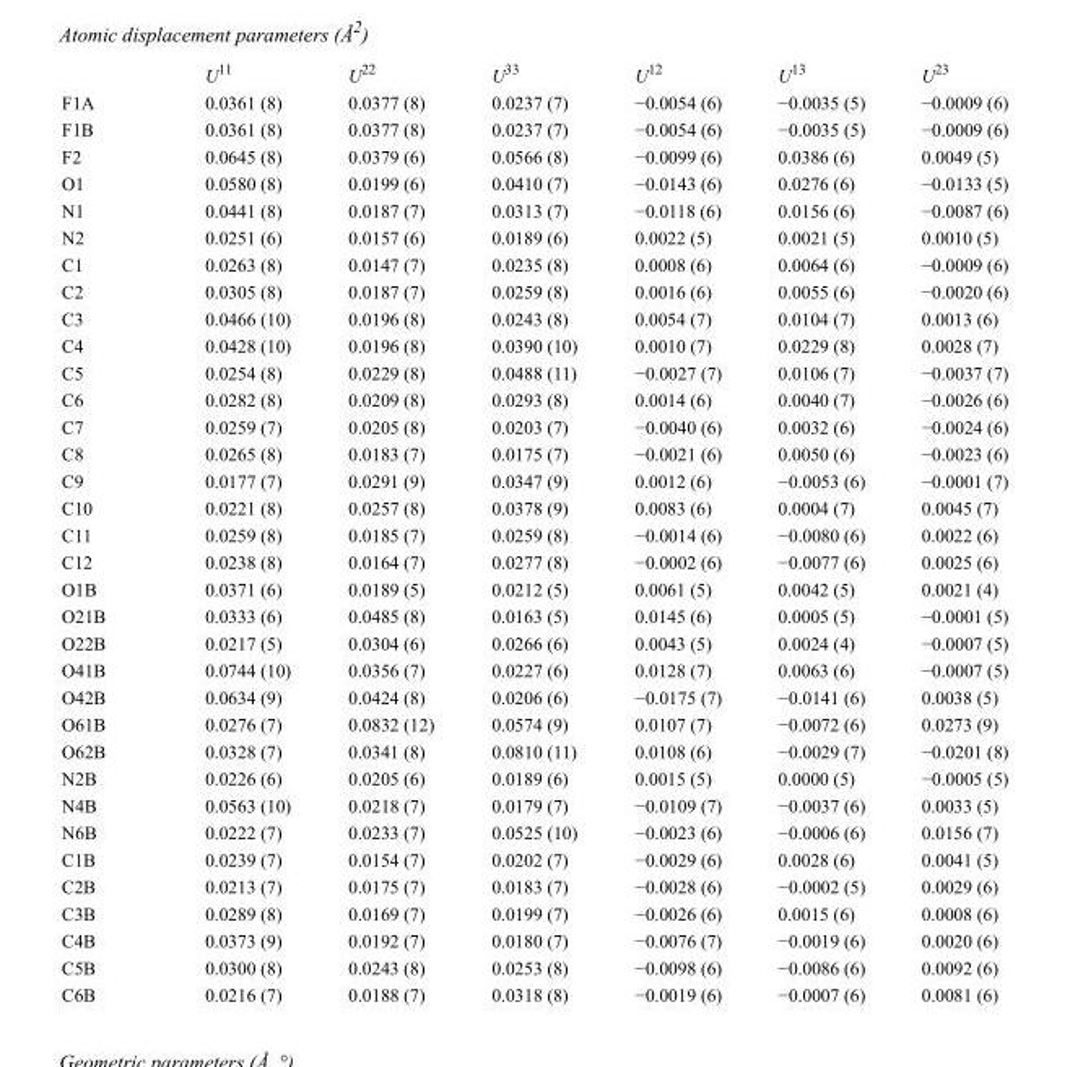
<table><thead><tr><td></td><td>U<sup>11</sup></td><td>U<sup>22</sup></td><td>U<sup>33</sup></td><td>U<sup>12</sup></td><td>U<sup>13</sup></td><td>U<sup>23</sup></td></tr></thead><tbody><tr><td>F1A</td><td>0.0361 (8)</td><td>0.0377 (8)</td><td>0.0237 (7)</td><td>−0.0054 (6)</td><td>−0.0035 (5)</td><td>−0.0009 (6)</td></tr><tr><td>F1B</td><td>0.0361 (8)</td><td>0.0377 (8)</td><td>0.0237 (7)</td><td>−0.0054 (6)</td><td>−0.0035 (5)</td><td>−0.0009 (6)</td></tr><tr><td>F2</td><td>0.0645 (8)</td><td>0.0379 (6)</td><td>0.0566 (8)</td><td>−0.0099 (6)</td><td>0.0386 (6)</td><td>0.0049 (5)</td></tr><tr><td>O1</td><td>0.0580 (8)</td><td>0.0199 (6)</td><td>0.0410 (7)</td><td>−0.0143 (6)</td><td>0.0276 (6)</td><td>−0.0133 (5)</td></tr><tr><td>N1</td><td>0.0441 (8)</td><td>0.0187 (7)</td><td>0.0313 (7)</td><td>−0.0118 (6)</td><td>0.0156 (6)</td><td>−0.0087 (6)</td></tr><tr><td>N2</td><td>0.0251 (6)</td><td>0.0157 (6)</td><td>0.0189 (6)</td><td>0.0022 (5)</td><td>0.0021 (5)</td><td>0.0010 (5)</td></tr><tr><td>C1</td><td>0.0263 (8)</td><td>0.0147 (7)</td><td>0.0235 (8)</td><td>0.0008 (6)</td><td>0.0064 (6)</td><td>−0.0009 (6)</td></tr><tr><td>C2</td><td>0.0305 (8)</td><td>0.0187 (7)</td><td>0.0259 (8)</td><td>0.0016 (6)</td><td>0.0055 (6)</td><td>−0.0020 (6)</td></tr><tr><td>C3</td><td>0.0466 (10)</td><td>0.0196 (8)</td><td>0.0243 (8)</td><td>0.0054 (7)</td><td>0.0104 (7)</td><td>0.0013 (6)</td></tr><tr><td>C4</td><td>0.0428 (10)</td><td>0.0196 (8)</td><td>0.0390 (10)</td><td>0.0010 (7)</td><td>0.0229 (8)</td><td>0.0028 (7)</td></tr><tr><td>C5</td><td>0.0254 (8)</td><td>0.0229 (8)</td><td>0.0488 (11)</td><td>−0.0027 (7)</td><td>0.0106 (7)</td><td>−0.0037 (7)</td></tr><tr><td>C6</td><td>0.0282 (8)</td><td>0.0209 (8)</td><td>0.0293 (8)</td><td>0.0014 (6)</td><td>0.0040 (7)</td><td>−0.0026 (6)</td></tr><tr><td>C7</td><td>0.0259 (7)</td><td>0.0205 (8)</td><td>0.0203 (7)</td><td>−0.0040 (6)</td><td>0.0032 (6)</td><td>−0.0024 (6)</td></tr><tr><td>C8</td><td>0.0265 (8)</td><td>0.0183 (7)</td><td>0.0175 (7)</td><td>−0.0021 (6)</td><td>0.0050 (6)</td><td>−0.0023 (6)</td></tr><tr><td>C9</td><td>0.0177 (7)</td><td>0.0291 (9)</td><td>0.0347 (9)</td><td>0.0012 (6)</td><td>−0.0053 (6)</td><td>−0.0001 (7)</td></tr><tr><td>C10</td><td>0.0221 (8)</td><td>0.0257 (8)</td><td>0.0378 (9)</td><td>0.0083 (6)</td><td>0.0004 (7)</td><td>0.0045 (7)</td></tr><tr><td>C11</td><td>0.0259 (8)</td><td>0.0185 (7)</td><td>0.0259 (8)</td><td>−0.0014 (6)</td><td>−0.0080 (6)</td><td>0.0022 (6)</td></tr><tr><td>C12</td><td>0.0238 (8)</td><td>0.0164 (7)</td><td>0.0277 (8)</td><td>−0.0002 (6)</td><td>−0.0077 (6)</td><td>0.0025 (6)</td></tr><tr><td>O1B</td><td>0.0371 (6)</td><td>0.0189 (5)</td><td>0.0212 (5)</td><td>0.0061 (5)</td><td>0.0042 (5)</td><td>0.0021 (4)</td></tr><tr><td>O21B</td><td>0.0333 (6)</td><td>0.0485 (8)</td><td>0.0163 (5)</td><td>0.0145 (6)</td><td>0.0005 (5)</td><td>−0.0001 (5)</td></tr><tr><td>O22B</td><td>0.0217 (5)</td><td>0.0304 (6)</td><td>0.0266 (6)</td><td>0.0043 (5)</td><td>0.0024 (4)</td><td>−0.0007 (5)</td></tr><tr><td>O41B</td><td>0.0744 (10)</td><td>0.0356 (7)</td><td>0.0227 (6)</td><td>0.0128 (7)</td><td>0.0063 (6)</td><td>−0.0007 (5)</td></tr><tr><td>O42B</td><td>0.0634 (9)</td><td>0.0424 (8)</td><td>0.0206 (6)</td><td>−0.0175 (7)</td><td>−0.0141 (6)</td><td>0.0038 (5)</td></tr><tr><td>O61B</td><td>0.0276 (7)</td><td>0.0832 (12)</td><td>0.0574 (9)</td><td>0.0107 (7)</td><td>−0.0072 (6)</td><td>0.0273 (9)</td></tr><tr><td>O62B</td><td>0.0328 (7)</td><td>0.0341 (8)</td><td>0.0810 (11)</td><td>0.0108 (6)</td><td>−0.0029 (7)</td><td>−0.0201 (8)</td></tr><tr><td>N2B</td><td>0.0226 (6)</td><td>0.0205 (6)</td><td>0.0189 (6)</td><td>0.0015 (5)</td><td>0.0000 (5)</td><td>−0.0005 (5)</td></tr><tr><td>N4B</td><td>0.0563 (10)</td><td>0.0218 (7)</td><td>0.0179 (7)</td><td>−0.0109 (7)</td><td>−0.0037 (6)</td><td>0.0033 (5)</td></tr><tr><td>N6B</td><td>0.0222 (7)</td><td>0.0233 (7)</td><td>0.0525 (10)</td><td>−0.0023 (6)</td><td>−0.0006 (6)</td><td>0.0156 (7)</td></tr><tr><td>C1B</td><td>0.0239 (7)</td><td>0.0154 (7)</td><td>0.0202 (7)</td><td>−0.0029 (6)</td><td>0.0028 (6)</td><td>0.0041 (5)</td></tr><tr><td>C2B</td><td>0.0213 (7)</td><td>0.0175 (7)</td><td>0.0183 (7)</td><td>−0.0028 (6)</td><td>−0.0002 (5)</td><td>0.0029 (6)</td></tr><tr><td>C3B</td><td>0.0289 (8)</td><td>0.0169 (7)</td><td>0.0199 (7)</td><td>−0.0026 (6)</td><td>0.0015 (6)</td><td>0.0008 (6)</td></tr><tr><td>C4B</td><td>0.0373 (9)</td><td>0.0192 (7)</td><td>0.0180 (7)</td><td>−0.0076 (7)</td><td>−0.0019 (6)</td><td>0.0020 (6)</td></tr><tr><td>C5B</td><td>0.0300 (8)</td><td>0.0243 (8)</td><td>0.0253 (8)</td><td>−0.0098 (6)</td><td>−0.0086 (6)</td><td>0.0092 (6)</td></tr><tr><td>C6B</td><td>0.0216 (7)</td><td>0.0188 (7)</td><td>0.0318 (8)</td><td>−0.0019 (6)</td><td>−0.0007 (6)</td><td>0.0081 (6)</td></tr></tbody></table>